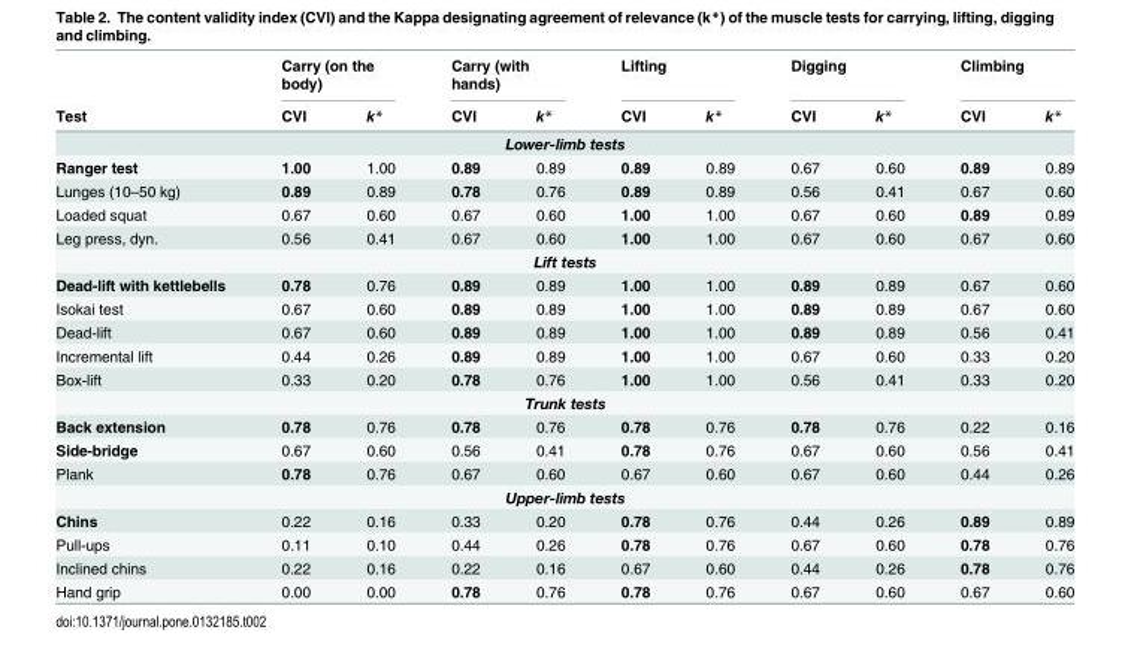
<table><thead><tr><td rowspan="2">Test</td><td colspan="2">Carry (on the body)</td><td colspan="2">Carry (with hands)</td><td colspan="2">Lifting</td><td colspan="2">Digging</td><td colspan="2">Climbing</td></tr><tr><td>CVI</td><td>k*</td><td>CVI</td><td>k*</td><td>CVI</td><td>k*</td><td>CVI</td><td>k*</td><td>CVI</td><td>k*</td></tr></thead><tbody><tr><td colspan="11">Lower-limb tests</td></tr><tr><td>Ranger test</td><td>1.00</td><td>1.00</td><td>0.89</td><td>0.89</td><td>0.89</td><td>0.89</td><td>0.67</td><td>0.60</td><td>0.89</td><td>0.89</td></tr><tr><td>Lunges (10–50 kg)</td><td>0.89</td><td>0.89</td><td>0.78</td><td>0.76</td><td>0.89</td><td>0.89</td><td>0.56</td><td>0.41</td><td>0.67</td><td>0.60</td></tr><tr><td>Loaded squat</td><td>0.67</td><td>0.60</td><td>0.67</td><td>0.60</td><td>1.00</td><td>1.00</td><td>0.67</td><td>0.60</td><td>0.89</td><td>0.89</td></tr><tr><td>Leg press, dyn.</td><td>0.56</td><td>0.41</td><td>0.67</td><td>0.60</td><td>1.00</td><td>1.00</td><td>0.67</td><td>0.60</td><td>0.67</td><td>0.60</td></tr><tr><td colspan="11">Lift tests</td></tr><tr><td>Dead-lift with kettlebells</td><td>0.78</td><td>0.76</td><td>0.89</td><td>0.89</td><td>1.00</td><td>1.00</td><td>0.89</td><td>0.89</td><td>0.67</td><td>0.60</td></tr><tr><td>Isokai test</td><td>0.67</td><td>0.60</td><td>0.89</td><td>0.89</td><td>1.00</td><td>1.00</td><td>0.89</td><td>0.89</td><td>0.67</td><td>0.60</td></tr><tr><td>Dead-lift</td><td>0.67</td><td>0.60</td><td>0.89</td><td>0.89</td><td>1.00</td><td>1.00</td><td>0.89</td><td>0.89</td><td>0.56</td><td>0.41</td></tr><tr><td>Incremental lift</td><td>0.44</td><td>0.26</td><td>0.89</td><td>0.89</td><td>1.00</td><td>1.00</td><td>0.67</td><td>0.60</td><td>0.33</td><td>0.20</td></tr><tr><td>Box-lift</td><td>0.33</td><td>0.20</td><td>0.78</td><td>0.76</td><td>1.00</td><td>1.00</td><td>0.56</td><td>0.41</td><td>0.33</td><td>0.20</td></tr><tr><td colspan="11">Trunk tests</td></tr><tr><td>Back extension</td><td>0.78</td><td>0.76</td><td>0.78</td><td>0.76</td><td>0.78</td><td>0.76</td><td>0.78</td><td>0.76</td><td>0.22</td><td>0.16</td></tr><tr><td>Side-bridge</td><td>0.67</td><td>0.60</td><td>0.56</td><td>0.41</td><td>0.78</td><td>0.76</td><td>0.67</td><td>0.60</td><td>0.56</td><td>0.41</td></tr><tr><td>Plank</td><td>0.78</td><td>0.76</td><td>0.67</td><td>0.60</td><td>0.67</td><td>0.60</td><td>0.67</td><td>0.60</td><td>0.44</td><td>0.26</td></tr><tr><td colspan="11">Upper-limb tests</td></tr><tr><td>Chins</td><td>0.22</td><td>0.16</td><td>0.33</td><td>0.20</td><td>0.78</td><td>0.76</td><td>0.44</td><td>0.26</td><td>0.89</td><td>0.89</td></tr><tr><td>Pull-ups</td><td>0.11</td><td>0.10</td><td>0.44</td><td>0.26</td><td>0.78</td><td>0.76</td><td>0.67</td><td>0.60</td><td>0.78</td><td>0.76</td></tr><tr><td>Inclined chins</td><td>0.22</td><td>0.16</td><td>0.22</td><td>0.16</td><td>0.67</td><td>0.60</td><td>0.44</td><td>0.26</td><td>0.78</td><td>0.76</td></tr><tr><td>Hand grip</td><td>0.00</td><td>0.00</td><td>0.78</td><td>0.76</td><td>0.78</td><td>0.76</td><td>0.67</td><td>0.60</td><td>0.67</td><td>0.60</td></tr></tbody></table>